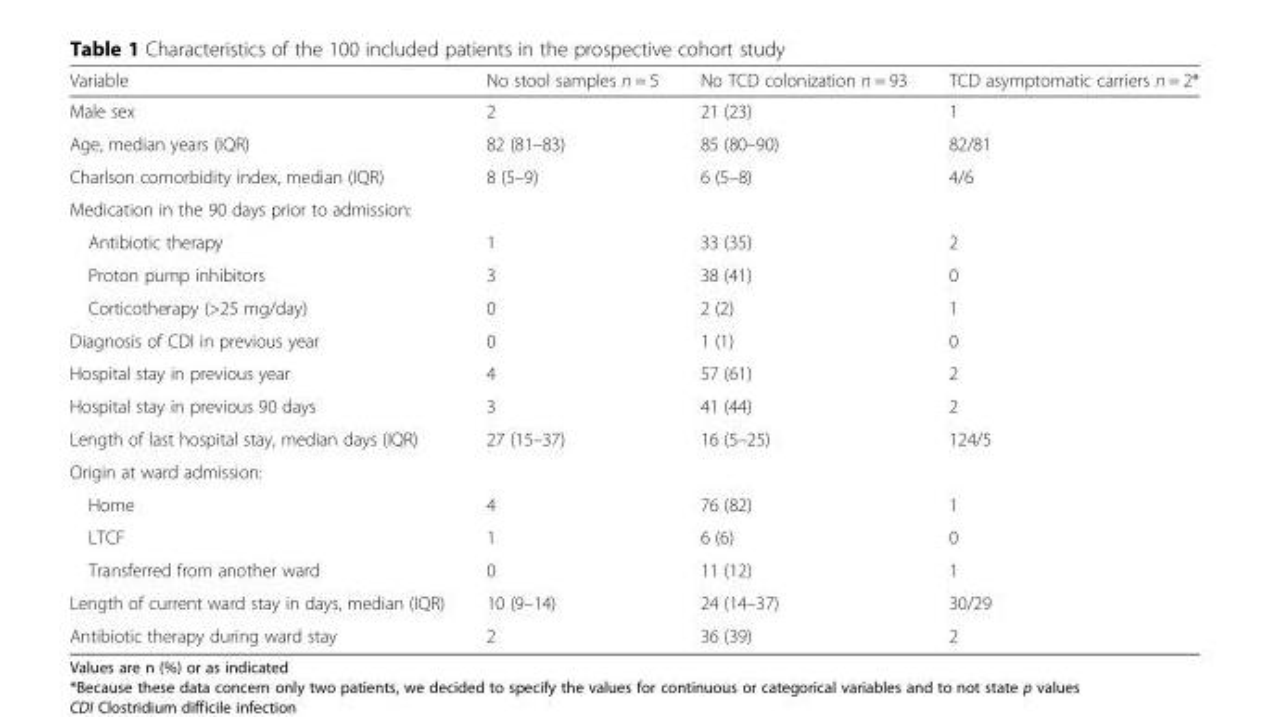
<table><thead><tr><td>Variable</td><td>No stool samples n = 5</td><td>No TCD colonization n = 93</td><td>TCD asymptomatic carriers n = 2*</td></tr></thead><tbody><tr><td>Male sex</td><td>2</td><td>21 (23)</td><td>1</td></tr><tr><td>Age, median years (IQR)</td><td>82 (81–83)</td><td>85 (80–90)</td><td>82/81</td></tr><tr><td>Charlson comorbidity index, median (IQR)</td><td>8 (5–9)</td><td>6 (5–8)</td><td>4/6</td></tr><tr><td colspan="4">Medication in the 90 days prior to admission:</td></tr><tr><td>Antibiotic therapy</td><td>1</td><td>33 (35)</td><td>2</td></tr><tr><td>Proton pump inhibitors</td><td>3</td><td>38 (41)</td><td>0</td></tr><tr><td>Corticotherapy (&gt;25 mg/day)</td><td>0</td><td>2 (2)</td><td>1</td></tr><tr><td>Diagnosis of CDI in previous year</td><td>0</td><td>1 (1)</td><td>0</td></tr><tr><td>Hospital stay in previous year</td><td>4</td><td>57 (61)</td><td>2</td></tr><tr><td>Hospital stay in previous 90 days</td><td>3</td><td>41 (44)</td><td>2</td></tr><tr><td>Length of last hospital stay, median days (IQR)</td><td>27 (15–37)</td><td>16 (5–25)</td><td>124/5</td></tr><tr><td colspan="4">Origin at ward admission:</td></tr><tr><td>Home</td><td>4</td><td>76 (82)</td><td>1</td></tr><tr><td>LTCF</td><td>1</td><td>6 (6)</td><td>0</td></tr><tr><td>Transferred from another ward</td><td>0</td><td>11 (12)</td><td>1</td></tr><tr><td>Length of current ward stay in days, median (IQR)</td><td>10 (9–14)</td><td>24 (14–37)</td><td>30/29</td></tr><tr><td>Antibiotic therapy during ward stay</td><td>2</td><td>36 (39)</td><td>2</td></tr></tbody></table>